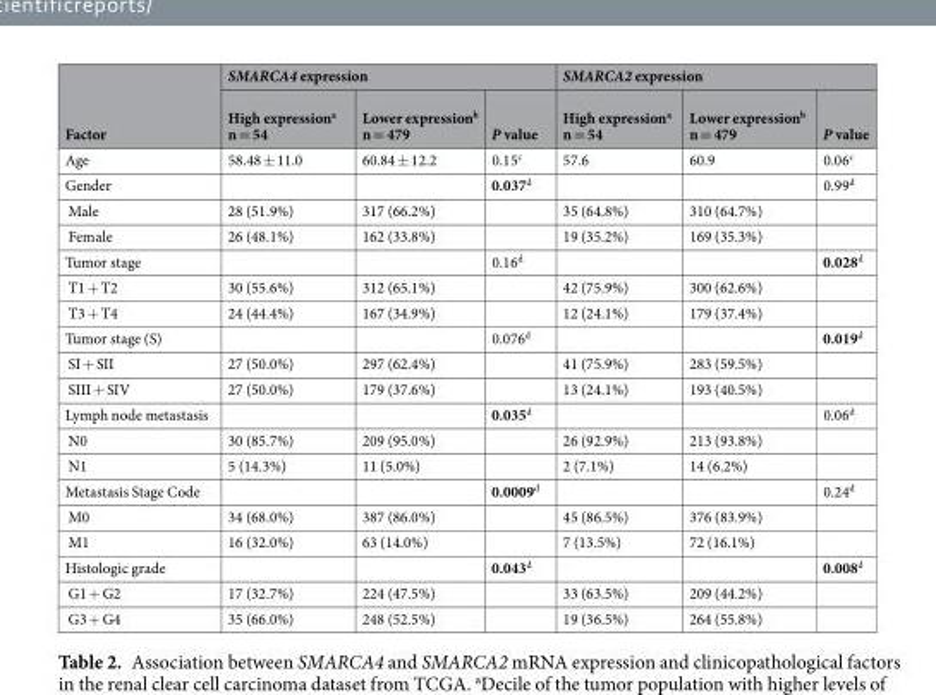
<table><thead><tr><td rowspan="2">Factor</td><td colspan="3">SMARCA4 expression</td><td colspan="3">SMARCA2 expression</td></tr><tr><td>High expression<sup>a</sup> n = 54</td><td>Lower expression<sup>b</sup> n = 479</td><td>P value</td><td>High expression<sup>a</sup> n = 54</td><td>Lower expression<sup>b</sup> n = 479</td><td>P value</td></tr></thead><tbody><tr><td>Age</td><td>58.48 ± 11.0</td><td>60.84 ± 12.2</td><td>0.15<sup>c</sup></td><td>57.6</td><td>60.9</td><td>0.06<sup>c</sup></td></tr><tr><td>Gender</td><td></td><td></td><td>0.037<sup>d</sup></td><td></td><td></td><td>0.99<sup>d</sup></td></tr><tr><td>Male</td><td>28 (51.9%)</td><td>317 (66.2%)</td><td></td><td>35 (64.8%)</td><td>310 (64.7%)</td><td></td></tr><tr><td>Female</td><td>26 (48.1%)</td><td>162 (33.8%)</td><td></td><td>19 (35.2%)</td><td>169 (35.3%)</td><td></td></tr><tr><td>Tumor stage</td><td></td><td></td><td>0.16<sup>d</sup></td><td></td><td></td><td>0.028<sup>d</sup></td></tr><tr><td>T1 + T2</td><td>30 (55.6%)</td><td>312 (65.1%)</td><td></td><td>42 (75.9%)</td><td>300 (62.6%)</td><td></td></tr><tr><td>T3 + T4</td><td>24 (44.4%)</td><td>167 (34.9%)</td><td></td><td>12 (24.1%)</td><td>179 (37.4%)</td><td></td></tr><tr><td>Tumor stage (S)</td><td></td><td></td><td>0.076<sup>d</sup></td><td></td><td></td><td>0.019<sup>d</sup></td></tr><tr><td>SI + SII</td><td>27 (50.0%)</td><td>297 (62.4%)</td><td></td><td>41 (75.9%)</td><td>283 (59.5%)</td><td></td></tr><tr><td>SIII + SIV</td><td>27 (50.0%)</td><td>179 (37.6%)</td><td></td><td>13 (24.1%)</td><td>193 (40.5%)</td><td></td></tr><tr><td>Lymph node metastasis</td><td></td><td></td><td>0.035<sup>d</sup></td><td></td><td></td><td>0.06<sup>d</sup></td></tr><tr><td>N0</td><td>30 (85.7%)</td><td>209 (95.0%)</td><td></td><td>26 (92.9%)</td><td>213 (93.8%)</td><td></td></tr><tr><td>N1</td><td>5 (14.3%)</td><td>11 (5.0%)</td><td></td><td>2 (7.1%)</td><td>14 (6.2%)</td><td></td></tr><tr><td>Metastasis Stage Code</td><td></td><td></td><td>0.0009<sup>d</sup></td><td></td><td></td><td>0.24<sup>d</sup></td></tr><tr><td>M0</td><td>34 (68.0%)</td><td>387 (86.0%)</td><td></td><td>45 (86.5%)</td><td>376 (83.9%)</td><td></td></tr><tr><td>M1</td><td>16 (32.0%)</td><td>63 (14.0%)</td><td></td><td>7 (13.5%)</td><td>72 (16.1%)</td><td></td></tr><tr><td>Histologic grade</td><td></td><td></td><td>0.043<sup>d</sup></td><td></td><td></td><td>0.008<sup>d</sup></td></tr><tr><td>G1 + G2</td><td>17 (32.7%)</td><td>224 (47.5%)</td><td></td><td>33 (63.5%)</td><td>209 (44.2%)</td><td></td></tr><tr><td>G3 + G4</td><td>35 (66.0%)</td><td>248 (52.5%)</td><td></td><td>19 (36.5%)</td><td>264 (55.8%)</td><td></td></tr></tbody></table>